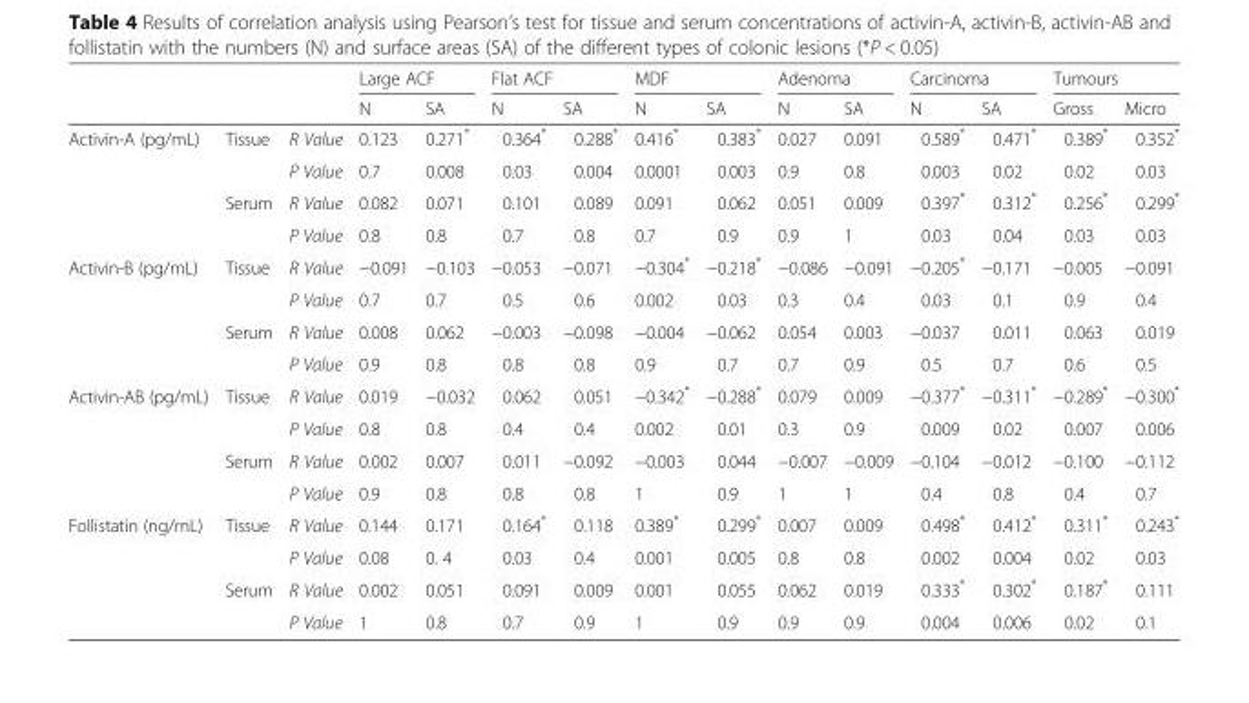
<table><thead><tr><td rowspan="2"></td><td rowspan="2"></td><td rowspan="2"></td><td colspan="2">Large ACF</td><td colspan="2">Flat ACF</td><td colspan="2">MDF</td><td colspan="2">Adenoma</td><td colspan="2">Carcinoma</td><td colspan="2">Tumours</td></tr><tr><td>N</td><td>SA</td><td>N</td><td>SA</td><td>N</td><td>SA</td><td>N</td><td>SA</td><td>N</td><td>SA</td><td>Gross</td><td>Micro</td></tr></thead><tbody><tr><td rowspan="4">Activin-A (pg/mL)</td><td rowspan="2">Tissue</td><td>R Value</td><td>0.123</td><td>0.271*</td><td>0.364*</td><td>0.288*</td><td>0.416*</td><td>0.383*</td><td>0.027</td><td>0.091</td><td>0.589*</td><td>0.471*</td><td>0.389*</td><td>0.352*</td></tr><tr><td>P Value</td><td>0.7</td><td>0.008</td><td>0.03</td><td>0.004</td><td>0.0001</td><td>0.003</td><td>0.9</td><td>0.8</td><td>0.003</td><td>0.02</td><td>0.02</td><td>0.03</td></tr><tr><td rowspan="2">Serum</td><td>R Value</td><td>0.082</td><td>0.071</td><td>0.101</td><td>0.089</td><td>0.091</td><td>0.062</td><td>0.051</td><td>0.009</td><td>0.397*</td><td>0.312*</td><td>0.256*</td><td>0.299*</td></tr><tr><td>P Value</td><td>0.8</td><td>0.8</td><td>0.7</td><td>0.8</td><td>0.7</td><td>0.9</td><td>0.9</td><td>1</td><td>0.03</td><td>0.04</td><td>0.03</td><td>0.03</td></tr><tr><td rowspan="4">Activin-B (pg/mL)</td><td rowspan="2">Tissue</td><td>R Value</td><td>−0.091</td><td>−0.103</td><td>−0.053</td><td>−0.071</td><td>−0.304*</td><td>−0.218*</td><td>−0.086</td><td>−0.091</td><td>−0.205*</td><td>−0.171</td><td>−0.005</td><td>−0.091</td></tr><tr><td>P Value</td><td>0.7</td><td>0.7</td><td>0.5</td><td>0.6</td><td>0.002</td><td>0.03</td><td>0.3</td><td>0.4</td><td>0.03</td><td>0.1</td><td>0.9</td><td>0.4</td></tr><tr><td rowspan="2">Serum</td><td>R Value</td><td>0.008</td><td>0.062</td><td>−0.003</td><td>−0.098</td><td>−0.004</td><td>−0.062</td><td>0.054</td><td>0.003</td><td>−0.037</td><td>0.011</td><td>0.063</td><td>0.019</td></tr><tr><td>P Value</td><td>0.9</td><td>0.8</td><td>0.8</td><td>0.8</td><td>0.9</td><td>0.7</td><td>0.7</td><td>0.9</td><td>0.5</td><td>0.7</td><td>0.6</td><td>0.5</td></tr><tr><td rowspan="4">Activin-AB (pg/mL)</td><td rowspan="2">Tissue</td><td>R Value</td><td>0.019</td><td>−0.032</td><td>0.062</td><td>0.051</td><td>−0.342*</td><td>−0.288*</td><td>0.079</td><td>0.009</td><td>−0.377*</td><td>−0.311*</td><td>−0.289*</td><td>−0.300*</td></tr><tr><td>P Value</td><td>0.8</td><td>0.8</td><td>0.4</td><td>0.4</td><td>0.002</td><td>0.01</td><td>0.3</td><td>0.9</td><td>0.009</td><td>0.02</td><td>0.007</td><td>0.006</td></tr><tr><td rowspan="2">Serum</td><td>R Value</td><td>0.002</td><td>0.007</td><td>0.011</td><td>−0.092</td><td>−0.003</td><td>0.044</td><td>−0.007</td><td>−0.009</td><td>−0.104</td><td>−0.012</td><td>−0.100</td><td>−0.112</td></tr><tr><td>P Value</td><td>0.9</td><td>0.8</td><td>0.8</td><td>0.8</td><td>1</td><td>0.9</td><td>1</td><td>1</td><td>0.4</td><td>0.8</td><td>0.4</td><td>0.7</td></tr><tr><td rowspan="4">Follistatin (ng/mL)</td><td rowspan="2">Tissue</td><td>R Value</td><td>0.144</td><td>0.171</td><td>0.164*</td><td>0.118</td><td>0.389*</td><td>0.299*</td><td>0.007</td><td>0.009</td><td>0.498*</td><td>0.412*</td><td>0.311*</td><td>0.243*</td></tr><tr><td>P Value</td><td>0.08</td><td>0. 4</td><td>0.03</td><td>0.4</td><td>0.001</td><td>0.005</td><td>0.8</td><td>0.8</td><td>0.002</td><td>0.004</td><td>0.02</td><td>0.03</td></tr><tr><td rowspan="2">Serum</td><td>R Value</td><td>0.002</td><td>0.051</td><td>0.091</td><td>0.009</td><td>0.001</td><td>0.055</td><td>0.062</td><td>0.019</td><td>0.333*</td><td>0.302*</td><td>0.187*</td><td>0.111</td></tr><tr><td>P Value</td><td>1</td><td>0.8</td><td>0.7</td><td>0.9</td><td>1</td><td>0.9</td><td>0.9</td><td>0.9</td><td>0.004</td><td>0.006</td><td>0.02</td><td>0.1</td></tr></tbody></table>